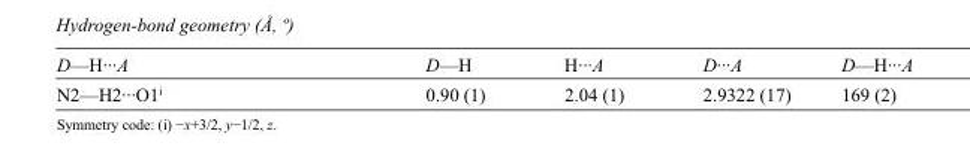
<table><tbody><tr><td>D—H···A</td><td>D—H</td><td>H···A</td><td>D···A</td><td>D—H···A</td></tr><tr><td>N2—H2···O1<sup>i</sup></td><td>0.90 (1)</td><td>2.04 (1)</td><td>2.9322 (17)</td><td>169 (2)</td></tr></tbody></table>